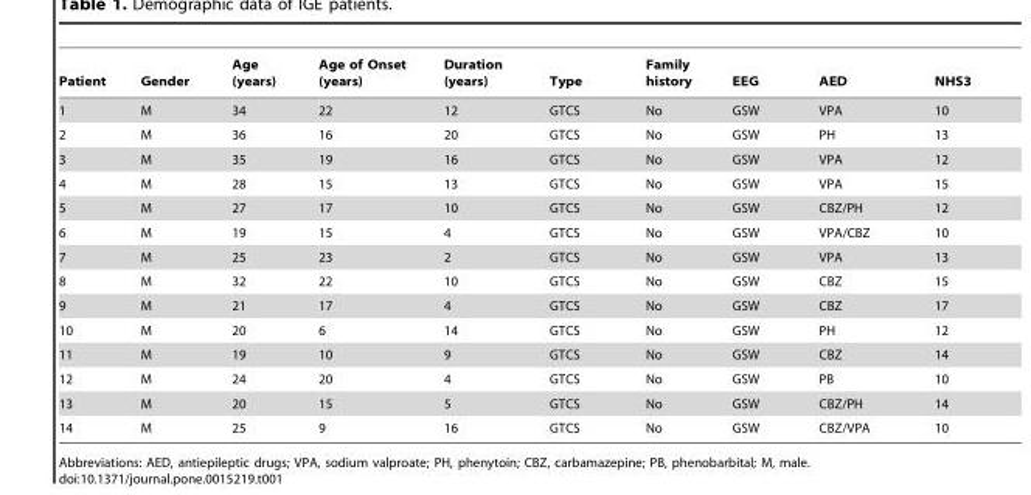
<table><thead><tr><td>Patient</td><td>Gender</td><td>Age (years)</td><td>Age of Onset (years)</td><td>Duration (years)</td><td>Type</td><td>Family history</td><td>EEG</td><td>AED</td><td>NHS3</td></tr></thead><tbody><tr><td>1</td><td>M</td><td>34</td><td>22</td><td>12</td><td>GTCS</td><td>No</td><td>GSW</td><td>VPA</td><td>10</td></tr><tr><td>2</td><td>M</td><td>36</td><td>16</td><td>20</td><td>GTCS</td><td>No</td><td>GSW</td><td>PH</td><td>13</td></tr><tr><td>3</td><td>M</td><td>35</td><td>19</td><td>16</td><td>GTCS</td><td>No</td><td>GSW</td><td>VPA</td><td>12</td></tr><tr><td>4</td><td>M</td><td>28</td><td>15</td><td>13</td><td>GTCS</td><td>No</td><td>GSW</td><td>VPA</td><td>15</td></tr><tr><td>5</td><td>M</td><td>27</td><td>17</td><td>10</td><td>GTCS</td><td>No</td><td>GSW</td><td>CBZ/PH</td><td>12</td></tr><tr><td>6</td><td>M</td><td>19</td><td>15</td><td>4</td><td>GTCS</td><td>No</td><td>GSW</td><td>VPA/CBZ</td><td>10</td></tr><tr><td>7</td><td>M</td><td>25</td><td>23</td><td>2</td><td>GTCS</td><td>No</td><td>GSW</td><td>VPA</td><td>13</td></tr><tr><td>8</td><td>M</td><td>32</td><td>22</td><td>10</td><td>GTCS</td><td>No</td><td>GSW</td><td>CBZ</td><td>15</td></tr><tr><td>9</td><td>M</td><td>21</td><td>17</td><td>4</td><td>GTCS</td><td>No</td><td>GSW</td><td>CBZ</td><td>17</td></tr><tr><td>10</td><td>M</td><td>20</td><td>6</td><td>14</td><td>GTCS</td><td>No</td><td>GSW</td><td>PH</td><td>12</td></tr><tr><td>11</td><td>M</td><td>19</td><td>10</td><td>9</td><td>GTCS</td><td>No</td><td>GSW</td><td>CBZ</td><td>14</td></tr><tr><td>12</td><td>M</td><td>24</td><td>20</td><td>4</td><td>GTCS</td><td>No</td><td>GSW</td><td>PB</td><td>10</td></tr><tr><td>13</td><td>M</td><td>20</td><td>15</td><td>5</td><td>GTCS</td><td>No</td><td>GSW</td><td>CBZ/PH</td><td>14</td></tr><tr><td>14</td><td>M</td><td>25</td><td>9</td><td>16</td><td>GTCS</td><td>No</td><td>GSW</td><td>CBZ/VPA</td><td>10</td></tr></tbody></table>